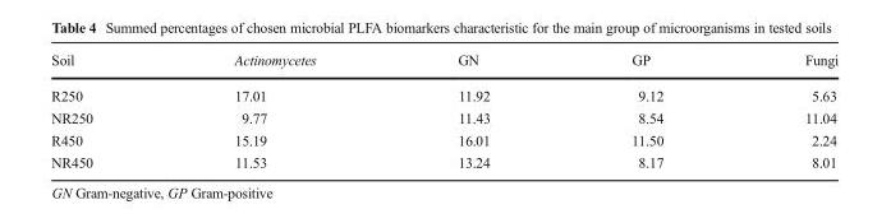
<table><thead><tr><td>Soil</td><td>Actinomycetes</td><td>GN</td><td>GP</td><td>Fungi</td></tr></thead><tbody><tr><td>R250</td><td>17.01</td><td>11.92</td><td>9.12</td><td>5.63</td></tr><tr><td>NR250</td><td>9.77</td><td>11.43</td><td>8.54</td><td>11.04</td></tr><tr><td>R450</td><td>15.19</td><td>16.01</td><td>11.50</td><td>2.24</td></tr><tr><td>NR450</td><td>11.53</td><td>13.24</td><td>8.17</td><td>8.01</td></tr></tbody></table>